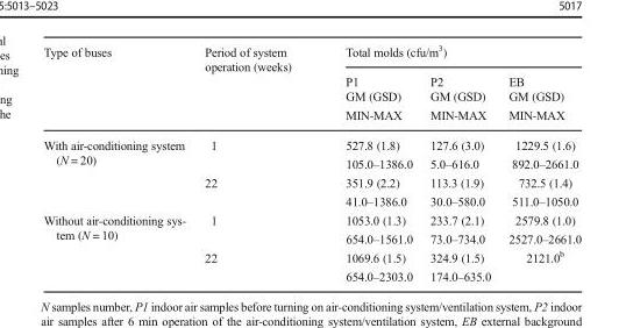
<table><thead><tr><td rowspan="3">Type of buses</td><td rowspan="3">Period of system operation (weeks)</td><td colspan="3">Total molds (cfu/m<sup>3</sup>)</td></tr><tr><td rowspan="2">P1 GM (GSD) MIN-MAX</td><td rowspan="2">P2 GM (GSD) MIN-MAX</td><td rowspan="2">EB GM (GSD) MIN-MAX</td></tr><tr></tr></thead><tbody><tr><td rowspan="2">With air-conditioning system (N = 20)</td><td>1</td><td>527.8 (1.8) 105.0–1386.0</td><td>127.6 (3.0) 5.0–616.0</td><td>1229.5 (1.6) 892.0–2661.0</td></tr><tr><td>22</td><td>351.9 (2.2) 41.0–1386.0</td><td>113.3 (1.9) 30.0–580.0</td><td>732.5 (1.4) 511.0–1050.0</td></tr><tr><td rowspan="2">Without air-conditioning sys- tem (N = 10)</td><td>1</td><td>1053.0 (1.3) 654.0–1561.0</td><td>233.7 (2.1) 73.0–734.0</td><td>2579.8 (1.0) 2527.0–2661.0</td></tr><tr><td>22</td><td>1069.6 (1.5) 654.0–2303.0</td><td>324.9 (1.5) 174.0–635.0</td><td>2121.0<sup>b</sup></td></tr></tbody></table>